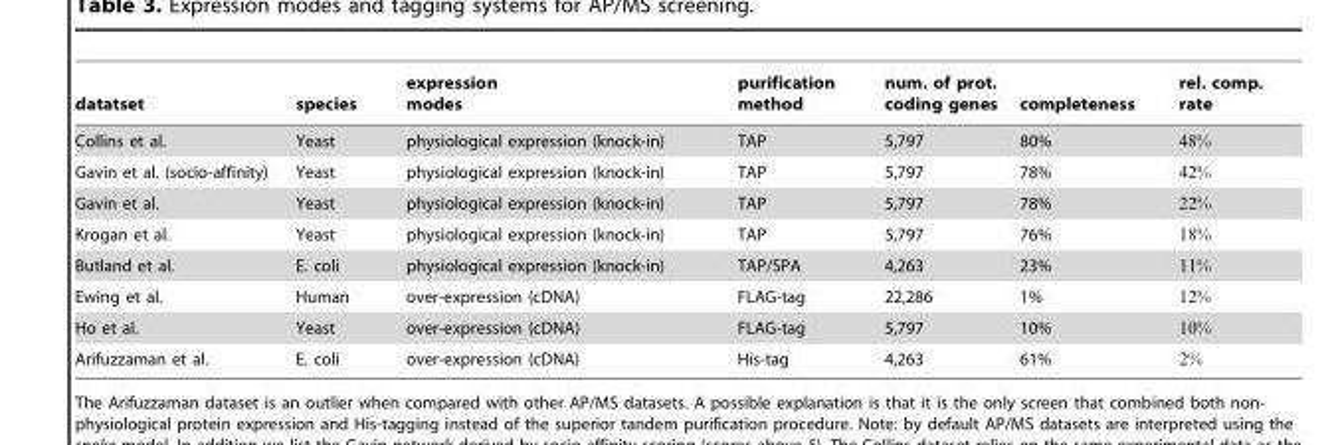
<table><thead><tr><td>datatset</td><td>species</td><td>expression modes</td><td>purification method</td><td>num. of prot. coding genes</td><td>completeness</td><td>rel. comp. rate</td></tr></thead><tbody><tr><td>Collins et al.</td><td>Yeast</td><td>physiological expression (knock-in)</td><td>TAP</td><td>5,797</td><td>80%</td><td>48%</td></tr><tr><td>Gavin et al. (socio-affinity)</td><td>Yeast</td><td>physiological expression (knock-in)</td><td>TAP</td><td>5,797</td><td>78%</td><td>42%</td></tr><tr><td>Gavin et al.</td><td>Yeast</td><td>physiological expression (knock-in)</td><td>TAP</td><td>5,797</td><td>78%</td><td>22%</td></tr><tr><td>Krogan et al.</td><td>Yeast</td><td>physiological expression (knock-in)</td><td>TAP</td><td>5,797</td><td>76%</td><td>18%</td></tr><tr><td>Butland et al.</td><td>E. coli</td><td>physiological expression (knock-in)</td><td>TAP/SPA</td><td>4,263</td><td>23%</td><td>11%</td></tr><tr><td>Ewing et al.</td><td>Human</td><td>over-expression (cDNA)</td><td>FLAG-tag</td><td>22,286</td><td>1%</td><td>12%</td></tr><tr><td>Ho et al.</td><td>Yeast</td><td>over-expression (cDNA)</td><td>FLAG-tag</td><td>5,797</td><td>10%</td><td>10%</td></tr><tr><td>Arifuzzaman et al.</td><td>E. coli</td><td>over-expression (cDNA)</td><td>His-tag</td><td>4,263</td><td>61%</td><td>2%</td></tr></tbody></table>